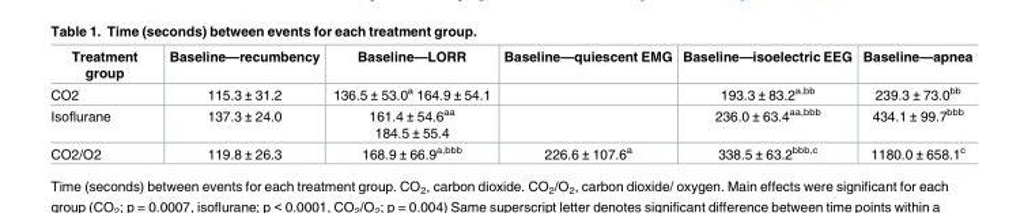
<table><thead><tr><td>Treatment group</td><td>Baseline—recumbency</td><td>Baseline—LORR</td><td>Baseline—quiescent EMG</td><td>Baseline—isoelectric EEG</td><td>Baseline—apnea</td></tr></thead><tbody><tr><td>CO2</td><td>115.3 ± 31.2</td><td>136.5 ± 53.0<sup>a</sup> 164.9 ± 54.1</td><td></td><td>193.3 ± 83.2<sup>a,bb</sup></td><td>239.3 ± 73.0<sup>bb</sup></td></tr><tr><td>Isoflurane</td><td>137.3 ± 24.0</td><td>161.4 ± 54.6<sup>aa</sup> 184.5 ± 55.4</td><td></td><td>236.0 ± 63.4<sup>aa,bbb</sup></td><td>434.1 ± 99.7<sup>bbb</sup></td></tr><tr><td>CO2/O2</td><td>119.8 ± 26.3</td><td>168.9 ± 66.9<sup>a,bbb</sup></td><td>226.6 ± 107.6<sup>a</sup></td><td>338.5 ± 63.2<sup>bbb,c</sup></td><td>1180.0 ± 658.1<sup>c</sup></td></tr></tbody></table>